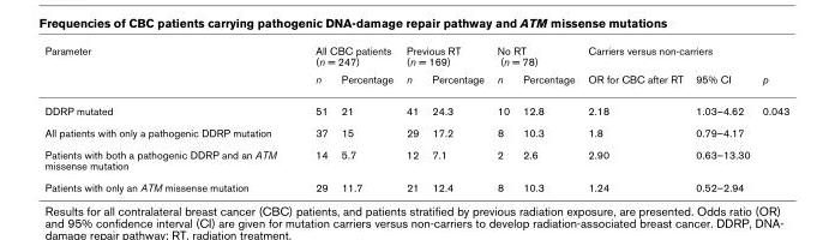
<table><thead><tr><td rowspan="2">Parameter</td><td colspan="2">All CBC patients (n = 247)</td><td colspan="2">Previous RT (n = 169)</td><td colspan="2">No RT (n = 78)</td><td colspan="3">Carriers versus non-carriers</td></tr><tr><td>n</td><td>Percentage</td><td>n</td><td>Percentage</td><td>n</td><td>Percentage</td><td>OR for CBC after RT</td><td>95% CI</td><td>p</td></tr></thead><tbody><tr><td>DDRP mutated</td><td>51</td><td>21</td><td>41</td><td>24.3</td><td>10</td><td>12.8</td><td>2.18</td><td>1.03–4.62</td><td>0.043</td></tr><tr><td>All patients with only a pathogenic DDRP mutation</td><td>37</td><td>15</td><td>29</td><td>17.2</td><td>8</td><td>10.3</td><td>1.8</td><td>0.79–4.17</td><td></td></tr><tr><td>Patients with both a pathogenic DDRP and an ATM missense mutation</td><td>14</td><td>5.7</td><td>12</td><td>7.1</td><td>2</td><td>2.6</td><td>2.90</td><td>0.63–13.30</td><td></td></tr><tr><td>Patients with only an ATM missense mutation</td><td>29</td><td>11.7</td><td>21</td><td>12.4</td><td>8</td><td>10.3</td><td>1.24</td><td>0.52–2.94</td><td></td></tr></tbody></table>